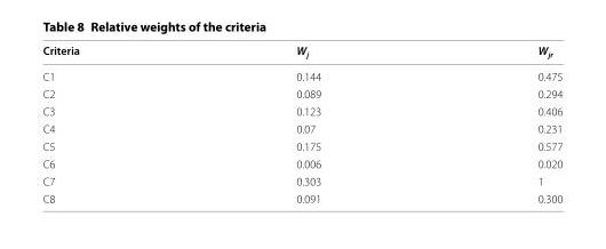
<table><thead><tr><td>Criteria</td><td>W<sub>j</sub></td><td>W<sub>jr</sub></td></tr></thead><tbody><tr><td>C1</td><td>0.144</td><td>0.475</td></tr><tr><td>C2</td><td>0.089</td><td>0.294</td></tr><tr><td>C3</td><td>0.123</td><td>0.406</td></tr><tr><td>C4</td><td>0.07</td><td>0.231</td></tr><tr><td>C5</td><td>0.175</td><td>0.577</td></tr><tr><td>C6</td><td>0.006</td><td>0.020</td></tr><tr><td>C7</td><td>0.303</td><td>1</td></tr><tr><td>C8</td><td>0.091</td><td>0.300</td></tr></tbody></table>